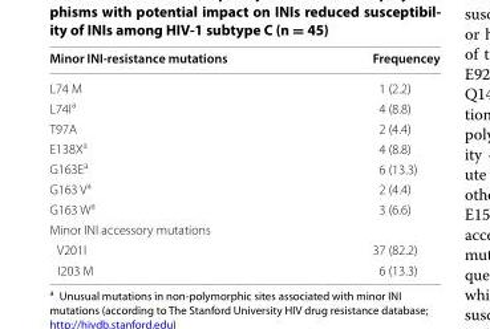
<table><thead><tr><td>Minor INI-resistance mutations</td><td>Frequencey</td></tr></thead><tbody><tr><td>L74 M</td><td>1 (2.2)</td></tr><tr><td>L74I<sup>a</sup></td><td>4 (8.8)</td></tr><tr><td>T97A</td><td>2 (4.4)</td></tr><tr><td>E138X<sup>a</sup></td><td>4 (8.8)</td></tr><tr><td>G163E<sup>a</sup></td><td>6 (13.3)</td></tr><tr><td>G163 V<sup>a</sup></td><td>2 (4.4)</td></tr><tr><td>G163 W<sup>a</sup></td><td>3 (6.6)</td></tr><tr><td colspan="2">Minor INI accessory mutations</td></tr><tr><td>V201I</td><td>37 (82.2)</td></tr><tr><td>I203 M</td><td>6 (13.3)</td></tr></tbody></table>